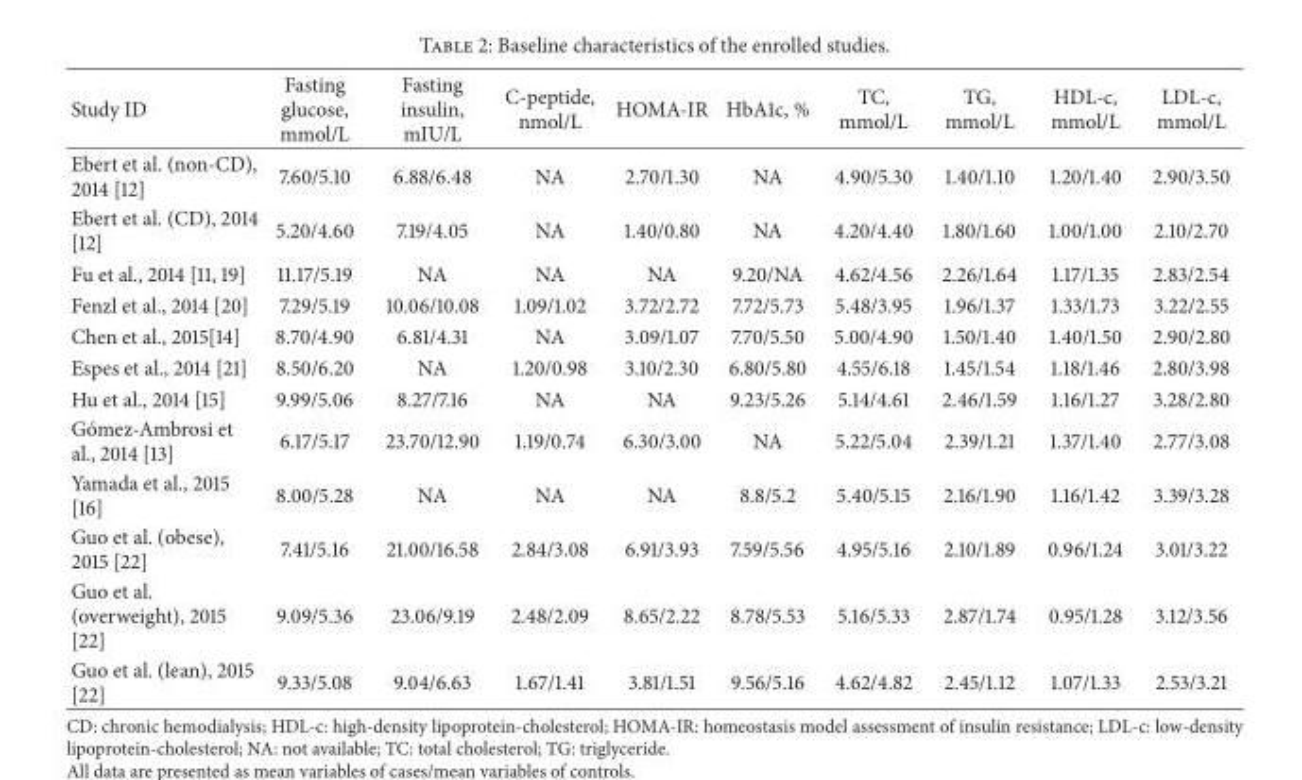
<table><thead><tr><td>Study ID</td><td>Fasting glucose, mmol/L</td><td>Fasting insulin, mIU/L</td><td>C-peptide, nmol/L</td><td>HOMA-IR</td><td>HbA1c, %</td><td>TC, mmol/L</td><td>TG, mmol/L</td><td>HDL-c, mmol/L</td><td>LDL-c, mmol/L</td></tr></thead><tbody><tr><td>Ebert et al. (non-CD), 2014 [12]</td><td>7.60/5.10</td><td>6.88/6.48</td><td>NA</td><td>2.70/1.30</td><td>NA</td><td>4.90/5.30</td><td>1.40/1.10</td><td>1.20/1.40</td><td>2.90/3.50</td></tr><tr><td>Ebert et al. (CD), 2014 [12]</td><td>5.20/4.60</td><td>7.19/4.05</td><td>NA</td><td>1.40/0.80</td><td>NA</td><td>4.20/4.40</td><td>1.80/1.60</td><td>1.00/1.00</td><td>2.10/2.70</td></tr><tr><td>Fu et al., 2014 [11, 19]</td><td>11.17/5.19</td><td>NA</td><td>NA</td><td>NA</td><td>9.20/NA</td><td>4.62/4.56</td><td>2.26/1.64</td><td>1.17/1.35</td><td>2.83/2.54</td></tr><tr><td>Fenzl et al., 2014 [20]</td><td>7.29/5.19</td><td>10.06/10.08</td><td>1.09/1.02</td><td>3.72/2.72</td><td>7.72/5.73</td><td>5.48/3.95</td><td>1.96/1.37</td><td>1.33/1.73</td><td>3.22/2.55</td></tr><tr><td>Chen et al., 2015[14]</td><td>8.70/4.90</td><td>6.81/4.31</td><td>NA</td><td>3.09/1.07</td><td>7.70/5.50</td><td>5.00/4.90</td><td>1.50/1.40</td><td>1.40/1.50</td><td>2.90/2.80</td></tr><tr><td>Espes et al., 2014 [21]</td><td>8.50/6.20</td><td>NA</td><td>1.20/0.98</td><td>3.10/2.30</td><td>6.80/5.80</td><td>4.55/6.18</td><td>1.45/1.54</td><td>1.18/1.46</td><td>2.80/3.98</td></tr><tr><td>Hu et al., 2014 [15]</td><td>9.99/5.06</td><td>8.27/7.16</td><td>NA</td><td>NA</td><td>9.23/5.26</td><td>5.14/4.61</td><td>2.46/1.59</td><td>1.16/1.27</td><td>3.28/2.80</td></tr><tr><td>G´omez-Ambrosi et al., 2014 [13]</td><td>6.17/5.17</td><td>23.70/12.90</td><td>1.19/0.74</td><td>6.30/3.00</td><td>NA</td><td>5.22/5.04</td><td>2.39/1.21</td><td>1.37/1.40</td><td>2.77/3.08</td></tr><tr><td>Yamada et al., 2015 [16]</td><td>8.00/5.28</td><td>NA</td><td>NA</td><td>NA</td><td>8.8/5.2</td><td>5.40/5.15</td><td>2.16/1.90</td><td>1.16/1.42</td><td>3.39/3.28</td></tr><tr><td>Guo et al. (obese), 2015 [22]</td><td>7.41/5.16</td><td>21.00/16.58</td><td>2.84/3.08</td><td>6.91/3.93</td><td>7.59/5.56</td><td>4.95/5.16</td><td>2.10/1.89</td><td>0.96/1.24</td><td>3.01/3.22</td></tr><tr><td>Guo et al. (overweight), 2015 [22]</td><td>9.09/5.36</td><td>23.06/9.19</td><td>2.48/2.09</td><td>8.65/2.22</td><td>8.78/5.53</td><td>5.16/5.33</td><td>2.87/1.74</td><td>0.95/1.28</td><td>3.12/3.56</td></tr><tr><td>Guo et al. (lean), 2015 [22]</td><td>9.33/5.08</td><td>9.04/6.63</td><td>1.67/1.41</td><td>3.81/1.51</td><td>9.56/5.16</td><td>4.62/4.82</td><td>2.45/1.12</td><td>1.07/1.33</td><td>2.53/3.21</td></tr></tbody></table>